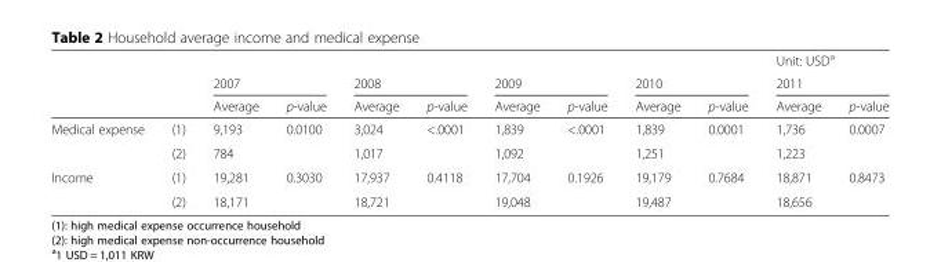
<table><thead><tr><td rowspan="3"></td><td rowspan="3"></td><td></td><td></td><td></td><td></td><td></td><td></td><td></td><td></td><td rowspan="2" colspan="2">Unit: USD<sup>a</sup> 2011</td></tr><tr><td colspan="2">2007</td><td colspan="2">2008</td><td colspan="2">2009</td><td colspan="2">2010</td></tr><tr><td>Average</td><td>p-value</td><td>Average</td><td>p-value</td><td>Average</td><td>p-value</td><td>Average</td><td>p-value</td><td>Average</td><td>p-value</td></tr></thead><tbody><tr><td rowspan="2">Medical expense</td><td>(1)</td><td>9,193</td><td rowspan="2">0.0100</td><td>3,024</td><td rowspan="2">&lt;.0001</td><td>1,839</td><td rowspan="2">&lt;.0001</td><td>1,839</td><td rowspan="2">0.0001</td><td>1,736</td><td rowspan="2">0.0007</td></tr><tr><td>(2)</td><td>784</td><td>1,017</td><td>1,092</td><td>1,251</td><td>1,223</td></tr><tr><td rowspan="2">Income</td><td>(1)</td><td>19,281</td><td rowspan="2">0.3030</td><td>17,937</td><td rowspan="2">0.4118</td><td>17,704</td><td rowspan="2">0.1926</td><td>19,179</td><td rowspan="2">0.7684</td><td>18,871</td><td rowspan="2">0.8473</td></tr><tr><td>(2)</td><td>18,171</td><td>18,721</td><td>19,048</td><td>19,487</td><td>18,656</td></tr></tbody></table>